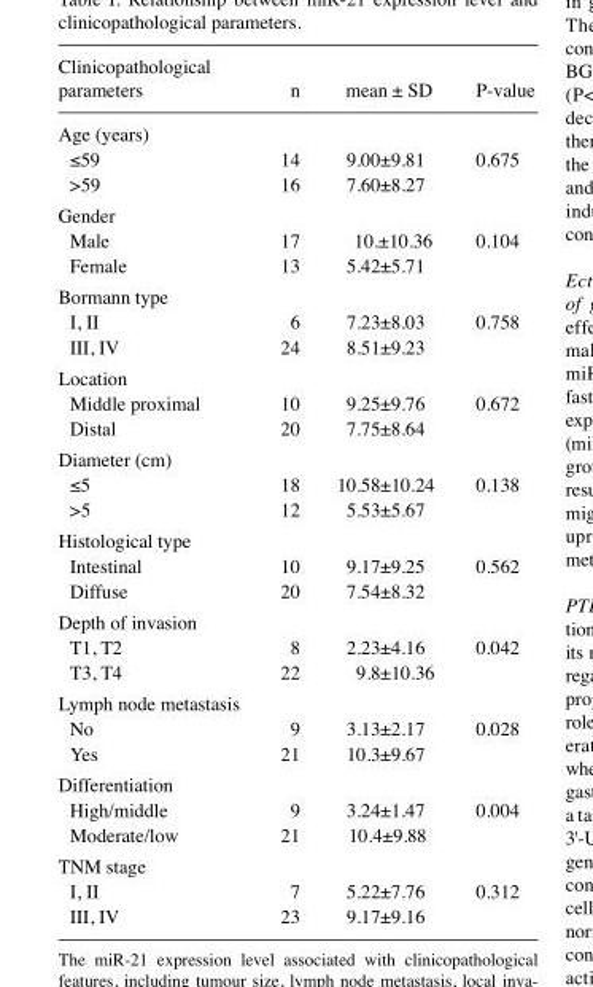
<table><thead><tr><td>Clinicopathological parameters</td><td>n</td><td>mean ± SD</td><td>P-value</td></tr></thead><tbody><tr><td colspan="4">Age (years)</td></tr><tr><td>≤59</td><td>14</td><td>9.00±9.81</td><td>0.675</td></tr><tr><td>&gt;59</td><td>16</td><td>7.60±8.27</td><td></td></tr><tr><td colspan="4">Gender</td></tr><tr><td>Male</td><td>17</td><td>10.±10.36</td><td>0.104</td></tr><tr><td>Female</td><td>13</td><td>5.42±5.71</td><td></td></tr><tr><td colspan="4">Bormann type</td></tr><tr><td>Ⅰ, Ⅱ</td><td>6</td><td>7.23±8.03</td><td>0.758</td></tr><tr><td>Ⅲ, Ⅳ</td><td>24</td><td>8.51±9.23</td><td></td></tr><tr><td colspan="4">Location</td></tr><tr><td>Middle proximal</td><td>10</td><td>9.25±9.76</td><td>0.672</td></tr><tr><td>Distal</td><td>20</td><td>7.75±8.64</td><td></td></tr><tr><td colspan="4">Diameter (cm)</td></tr><tr><td>≤5</td><td>18</td><td>10.58±10.24</td><td>0.138</td></tr><tr><td>&gt;5</td><td>12</td><td>5.53±5.67</td><td></td></tr><tr><td colspan="4">Histological type</td></tr><tr><td>Intestinal</td><td>10</td><td>9.17±9.25</td><td>0.562</td></tr><tr><td>Diffuse</td><td>20</td><td>7.54±8.32</td><td></td></tr><tr><td colspan="4">Depth of invasion</td></tr><tr><td>T1, T2</td><td>8</td><td>2.23±4.16</td><td>0.042</td></tr><tr><td>T3, T4</td><td>22</td><td>9.8±10.36</td><td></td></tr><tr><td colspan="4">Lymph node metastasis</td></tr><tr><td>No</td><td>9</td><td>3.13±2.17</td><td>0.028</td></tr><tr><td>Yes</td><td>21</td><td>10.3±9.67</td><td></td></tr><tr><td colspan="4">Differentiation</td></tr><tr><td>High/middle</td><td>9</td><td>3.24±1.47</td><td>0.004</td></tr><tr><td>Moderate/low</td><td>21</td><td>10.4±9.88</td><td></td></tr><tr><td colspan="4">TNM stage</td></tr><tr><td>Ⅰ, Ⅱ</td><td>7</td><td>5.22±7.76</td><td>0.312</td></tr><tr><td>Ⅲ, Ⅳ</td><td>23</td><td>9.17±9.16</td><td></td></tr></tbody></table>